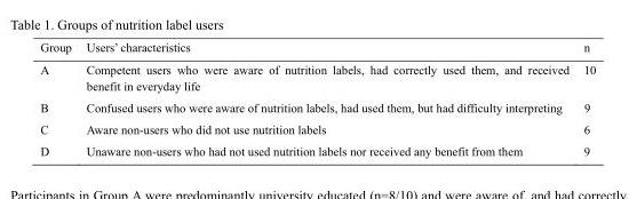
<table><thead><tr><td>Group</td><td>Users’ characteristics</td><td>n</td></tr></thead><tbody><tr><td>A</td><td>Competent users who were aware of nutrition labels, had correctly used them, and received benefit in everyday life</td><td>10</td></tr><tr><td>B</td><td>Confused users who were aware of nutrition labels, had used them, but had difficulty interpreting</td><td>9</td></tr><tr><td>C</td><td>Aware non-users who did not use nutrition labels</td><td>6</td></tr><tr><td>D</td><td>Unaware non-users who had not used nutrition labels nor received any benefit from them</td><td>9</td></tr></tbody></table>